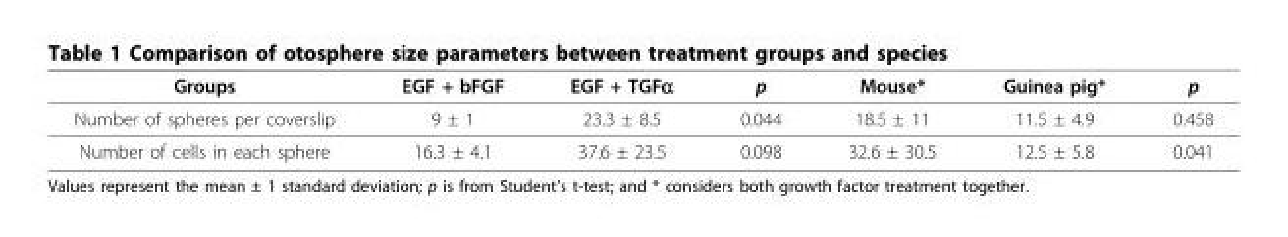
<table><thead><tr><td>Groups</td><td>EGF + bFGF</td><td>EGF + TGFα</td><td>p</td><td>Mouse*</td><td>Guinea pig*</td><td>p</td></tr></thead><tbody><tr><td>Number of spheres per coverslip</td><td>9 ± 1</td><td>23.3 ± 8.5</td><td>0.044</td><td>18.5 ± 11</td><td>11.5 ± 4.9</td><td>0.458</td></tr><tr><td>Number of cells in each sphere</td><td>16.3 ± 4.1</td><td>37.6 ± 23.5</td><td>0.098</td><td>32.6 ± 30.5</td><td>12.5 ± 5.8</td><td>0.041</td></tr></tbody></table>